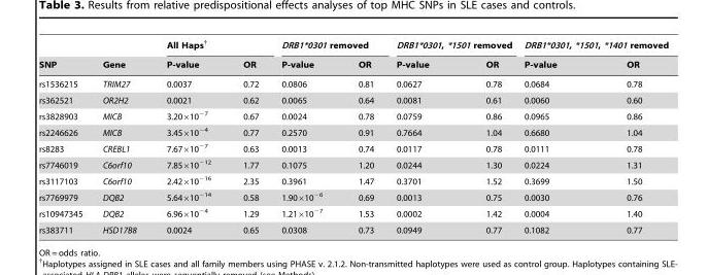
<table><thead><tr><td rowspan="2">SNP</td><td rowspan="2">Gene</td><td colspan="2">All Haps†</td><td colspan="2">DRB1*0301 removed</td><td colspan="2">DRB1*0301, *1501 removed</td><td colspan="2">DRB1*0301, *1501, *1401 removed</td></tr><tr><td>P-value</td><td>OR</td><td>P-value</td><td>OR</td><td>P-value</td><td>OR</td><td>P-value</td><td>OR</td></tr></thead><tbody><tr><td>rs1536215</td><td>TRIM27</td><td>0.0037</td><td>0.72</td><td>0.0806</td><td>0.81</td><td>0.0627</td><td>0.78</td><td>0.0684</td><td>0.78</td></tr><tr><td>rs362521</td><td>OR2H2</td><td>0.0021</td><td>0.62</td><td>0.0065</td><td>0.64</td><td>0.0081</td><td>0.61</td><td>0.0060</td><td>0.60</td></tr><tr><td>rs3828903</td><td>MICB</td><td>3.20×10<sup>−7</sup></td><td>0.67</td><td>0.0024</td><td>0.78</td><td>0.0759</td><td>0.86</td><td>0.0965</td><td>0.86</td></tr><tr><td>rs2246626</td><td>MICB</td><td>3.45×10<sup>−4</sup></td><td>0.77</td><td>0.2570</td><td>0.91</td><td>0.7664</td><td>1.04</td><td>0.6680</td><td>1.04</td></tr><tr><td>rs8283</td><td>CREBL1</td><td>7.67×10<sup>−7</sup></td><td>0.63</td><td>0.0013</td><td>0.74</td><td>0.0117</td><td>0.78</td><td>0.0111</td><td>0.78</td></tr><tr><td>rs7746019</td><td>C6orf10</td><td>7.85×10<sup>−12</sup></td><td>1.77</td><td>0.1075</td><td>1.20</td><td>0.0244</td><td>1.30</td><td>0.0224</td><td>1.31</td></tr><tr><td>rs3117103</td><td>C6orf10</td><td>2.42×10<sup>−16</sup></td><td>2.35</td><td>0.3961</td><td>1.47</td><td>0.3701</td><td>1.52</td><td>0.3699</td><td>1.50</td></tr><tr><td>rs7769979</td><td>DQB2</td><td>5.64×10<sup>−14</sup></td><td>0.58</td><td>1.90×10<sup>−6</sup></td><td>0.69</td><td>0.0013</td><td>0.75</td><td>0.0030</td><td>0.76</td></tr><tr><td>rs10947345</td><td>DQB2</td><td>6.96×10<sup>−4</sup></td><td>1.29</td><td>1.21×10<sup>−7</sup></td><td>1.53</td><td>0.0002</td><td>1.42</td><td>0.0004</td><td>1.40</td></tr><tr><td>rs383711</td><td>HSD17B8</td><td>0.0024</td><td>0.65</td><td>0.0308</td><td>0.73</td><td>0.0949</td><td>0.77</td><td>0.1082</td><td>0.77</td></tr></tbody></table>